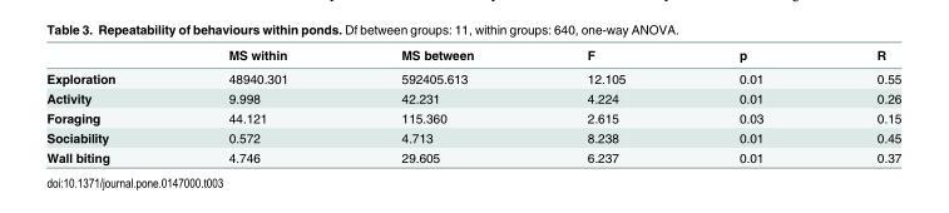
<table><thead><tr><td></td><td>MS within</td><td>MS between</td><td>F</td><td>p</td><td>R</td></tr></thead><tbody><tr><td>Exploration</td><td>48940.301</td><td>592405.613</td><td>12.105</td><td>0.01</td><td>0.55</td></tr><tr><td>Activity</td><td>9.998</td><td>42.231</td><td>4.224</td><td>0.01</td><td>0.26</td></tr><tr><td>Foraging</td><td>44.121</td><td>115.360</td><td>2.615</td><td>0.03</td><td>0.15</td></tr><tr><td>Sociability</td><td>0.572</td><td>4.713</td><td>8.238</td><td>0.01</td><td>0.45</td></tr><tr><td>Wall biting</td><td>4.746</td><td>29.605</td><td>6.237</td><td>0.01</td><td>0.37</td></tr></tbody></table>